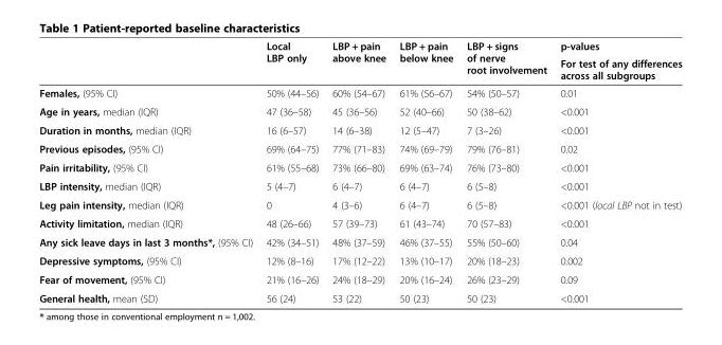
<table><thead><tr><td rowspan="2"></td><td rowspan="2">Local LBP only</td><td rowspan="2">LBP + pain above knee</td><td rowspan="2">LBP + pain below knee</td><td rowspan="2">LBP + signs of nerve root involvement</td><td rowspan="2">p-values For test of any differences across all subgroups</td></tr><tr></tr></thead><tbody><tr><td>Females, (95% CI)</td><td>50% (44–56)</td><td>60% (54–67)</td><td>61% (56–67)</td><td>54% (50–57)</td><td>0.01</td></tr><tr><td>Age in years, median (IQR)</td><td>47 (36–58)</td><td>45 (36–56)</td><td>52 (40–66)</td><td>50 (38–62)</td><td>&lt;0.001</td></tr><tr><td>Duration in months, median (IQR)</td><td>16 (6–57)</td><td>14 (6–38)</td><td>12 (5–47)</td><td>7 (3–26)</td><td>&lt;0.001</td></tr><tr><td>Previous episodes, (95% CI)</td><td>69% (64–75)</td><td>77% (71–83)</td><td>74% (69–79)</td><td>79% (76–81)</td><td>0.02</td></tr><tr><td>Pain irritability, (95% CI)</td><td>61% (55–68)</td><td>73% (66–80)</td><td>69% (63–74)</td><td>76% (73–80)</td><td>&lt;0.001</td></tr><tr><td>LBP intensity, median (IQR)</td><td>5 (4–7)</td><td>6 (4–7)</td><td>6 (4–7)</td><td>6 (5–8)</td><td>&lt;0.001</td></tr><tr><td>Leg pain intensity, median (IQR)</td><td>0</td><td>4 (3–6)</td><td>6 (4–7)</td><td>6 (5–8)</td><td>&lt;0.001 (local LBP not in test)</td></tr><tr><td>Activity limitation, median (IQR)</td><td>48 (26–66)</td><td>57 (39–73)</td><td>61 (43–74)</td><td>70 (57–83)</td><td>&lt;0.001</td></tr><tr><td>Any sick leave days in last 3 months*, (95% CI)</td><td>42% (34–51)</td><td>48% (37–59)</td><td>46% (37–55)</td><td>55% (50–60)</td><td>0.04</td></tr><tr><td>Depressive symptoms, (95% CI)</td><td>12% (8–16)</td><td>17% (12–22)</td><td>13% (10–17)</td><td>20% (18–23)</td><td>0.002</td></tr><tr><td>Fear of movement, (95% CI)</td><td>21% (16–26)</td><td>24% (18–29)</td><td>20% (16–24)</td><td>26% (23–29)</td><td>0.09</td></tr><tr><td>General health, mean (SD)</td><td>56 (24)</td><td>53 (22)</td><td>50 (23)</td><td>50 (23)</td><td>&lt;0.001</td></tr></tbody></table>